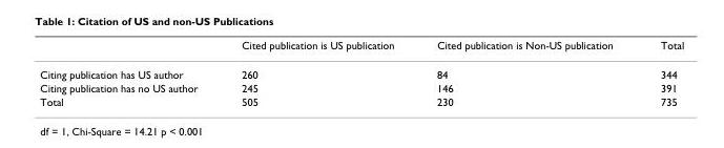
<table><thead><tr><td></td><td>Cited publication is US publication</td><td>Cited publication is Non-US publication</td><td>Total</td></tr></thead><tbody><tr><td>Citing publication has US author</td><td>260</td><td>84</td><td>344</td></tr><tr><td>Citing publication has no US author</td><td>245</td><td>146</td><td>391</td></tr><tr><td>Total</td><td>505</td><td>230</td><td>735</td></tr></tbody></table>